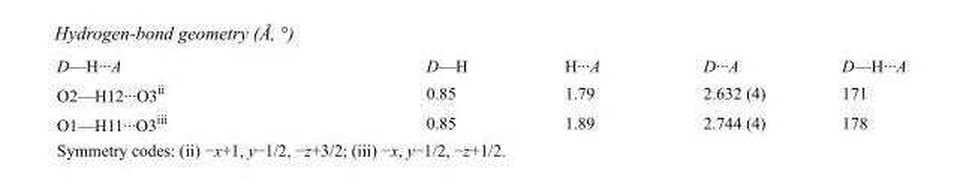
<table><tbody><tr><td>D—H···A</td><td>D—H</td><td>H···A</td><td>D···A</td><td>D—H···A</td></tr><tr><td>O2—H12···O3<sup>ii</sup></td><td>0.85</td><td>1.79</td><td>2.632 (4)</td><td>171</td></tr><tr><td>O1—H11···O3<sup>iii</sup></td><td>0.85</td><td>1.89</td><td>2.744 (4)</td><td>178</td></tr></tbody></table>